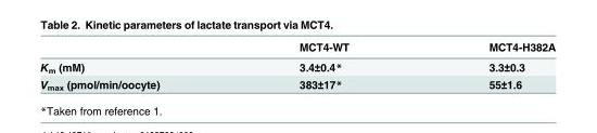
<table><thead><tr><td></td><td>MCT4-WT</td><td>MCT4-H382A</td></tr></thead><tbody><tr><td>K<sub>m</sub> (mM)</td><td>3.4±0.4*</td><td>3.3±0.3</td></tr><tr><td>V<sub>max</sub> (pmol/min/oocyte)</td><td>383±17*</td><td>55±1.6</td></tr></tbody></table>